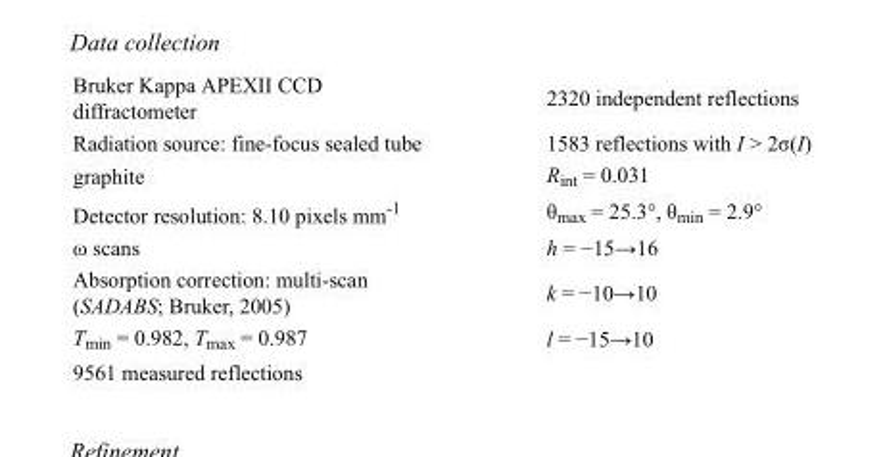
<table><tbody><tr><td>Bruker Kappa APEXII CCD diffractometer</td><td>2320 independent reflections</td></tr><tr><td>Radiation source: fine-focus sealed tube</td><td>1583 reflections with I &gt; 2σ(I)</td></tr><tr><td>graphite</td><td>R<sub>int</sub> = 0.031</td></tr><tr><td>Detector resolution: 8.10 pixels mm<sup>-1</sup></td><td>θ<sub>max</sub> = 25.3°, θ<sub>min</sub> = 2.9°</td></tr><tr><td>ω scans</td><td>h = −15→16</td></tr><tr><td>Absorption correction: multi-scan (SADABS; Bruker, 2005)</td><td>k = −10→10</td></tr><tr><td>T<sub>min</sub> = 0.982, T<sub>max</sub> = 0.987</td><td>l = −15→10</td></tr><tr><td>9561 measured reflections</td><td></td></tr></tbody></table>